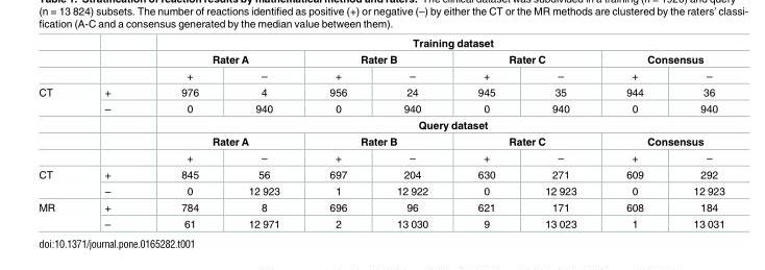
<table><thead><tr><td rowspan="3"></td><td rowspan="3"></td><td colspan="8">Training dataset</td></tr><tr><td colspan="2">Rater A</td><td colspan="2">Rater B</td><td colspan="2">Rater C</td><td colspan="2">Consensus</td></tr><tr><td>+</td><td>–</td><td>+</td><td>–</td><td>+</td><td>–</td><td>+</td><td>–</td></tr></thead><tbody><tr><td rowspan="5">CT</td><td>+</td><td>976</td><td>4</td><td>956</td><td>24</td><td>945</td><td>35</td><td>944</td><td>36</td></tr><tr><td>–</td><td>0</td><td>940</td><td>0</td><td>940</td><td>0</td><td>940</td><td>0</td><td>940</td></tr><tr><td></td><td colspan="8">Query dataset</td></tr><tr><td></td><td colspan="2">Rater A</td><td colspan="2">Rater B</td><td colspan="2">Rater C</td><td colspan="2">Consensus</td></tr><tr><td></td><td>+</td><td>–</td><td>+</td><td>–</td><td>+</td><td>–</td><td>+</td><td>–</td></tr><tr><td rowspan="2">CT</td><td>+</td><td>845</td><td>56</td><td>697</td><td>204</td><td>630</td><td>271</td><td>609</td><td>292</td></tr><tr><td>–</td><td>0</td><td>12 923</td><td>1</td><td>12 922</td><td>0</td><td>12 923</td><td>0</td><td>12 923</td></tr><tr><td rowspan="2">MR</td><td>+</td><td>784</td><td>8</td><td>696</td><td>96</td><td>621</td><td>171</td><td>608</td><td>184</td></tr><tr><td>–</td><td>61</td><td>12 971</td><td>2</td><td>13 030</td><td>9</td><td>13 023</td><td>1</td><td>13 031</td></tr></tbody></table>